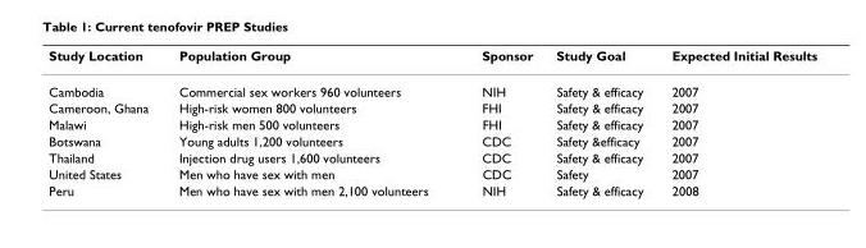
<table><thead><tr><td>Study Location</td><td>Population Group</td><td>Sponsor</td><td>Study Goal</td><td>Expected Initial Results</td></tr></thead><tbody><tr><td>Cambodia</td><td>Commercial sex workers 960 volunteers</td><td>NIH</td><td>Safety &amp; efficacy</td><td>2007</td></tr><tr><td>Cameroon, Ghana</td><td>High-risk women 800 volunteers</td><td>FHI</td><td>Safety &amp; efficacy</td><td>2007</td></tr><tr><td>Malawi</td><td>High-risk men 500 volunteers</td><td>FHI</td><td>Safety &amp; efficacy</td><td>2007</td></tr><tr><td>Botswana</td><td>Young adults 1,200 volunteers</td><td>CDC</td><td>Safety &amp;efficacy</td><td>2007</td></tr><tr><td>Thailand</td><td>Injection drug users 1,600 volunteers</td><td>CDC</td><td>Safety &amp; efficacy</td><td>2007</td></tr><tr><td>United States</td><td>Men who have sex with men</td><td>CDC</td><td>Safety</td><td>2007</td></tr><tr><td>Peru</td><td>Men who have sex with men 2,100 volunteers</td><td>NIH</td><td>Safety &amp; efficacy</td><td>2008</td></tr></tbody></table>